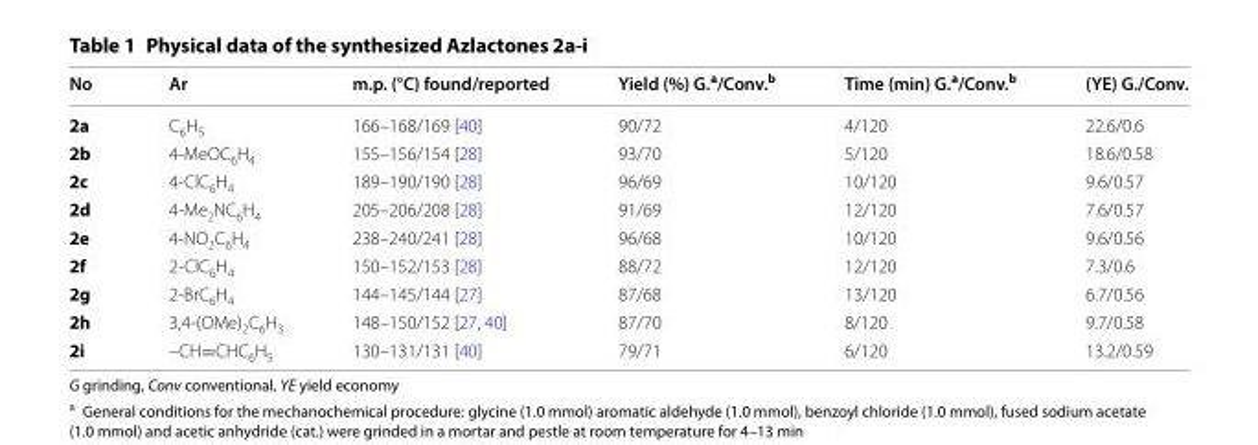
<table><thead><tr><td>No</td><td>Ar</td><td>m.p. (°C) found/reported</td><td>Yield (%) G.<sup>a</sup>/Conv.<sup>b</sup></td><td>Time (min) G.<sup>a</sup>/Conv.<sup>b</sup></td><td>(YE) G./Conv.</td></tr></thead><tbody><tr><td>2a</td><td>C<sub>6</sub>H<sub>5</sub></td><td>166–168/169 [40]</td><td>90/72</td><td>4/120</td><td>22.6/0.6</td></tr><tr><td>2b</td><td>4‑MeOC<sub>6</sub>H<sub>4</sub></td><td>155–156/154 [28]</td><td>93/70</td><td>5/120</td><td>18.6/0.58</td></tr><tr><td>2c</td><td>4‑ClC<sub>6</sub>H<sub>4</sub></td><td>189–190/190 [28]</td><td>96/69</td><td>10/120</td><td>9.6/0.57</td></tr><tr><td>2d</td><td>4‑Me<sub>2</sub>NC<sub>6</sub>H<sub>4</sub></td><td>205–206/208 [28]</td><td>91/69</td><td>12/120</td><td>7.6/0.57</td></tr><tr><td>2e</td><td>4‑NO<sub>2</sub>C<sub>6</sub>H<sub>4</sub></td><td>238–240/241 [28]</td><td>96/68</td><td>10/120</td><td>9.6/0.56</td></tr><tr><td>2f</td><td>2‑ClC<sub>6</sub>H<sub>4</sub></td><td>150–152/153 [28]</td><td>88/72</td><td>12/120</td><td>7.3/0.6</td></tr><tr><td>2g</td><td>2‑BrC<sub>6</sub>H<sub>4</sub></td><td>144–145/144 [27]</td><td>87/68</td><td>13/120</td><td>6.7/0.56</td></tr><tr><td>2h</td><td>3,4‑(OMe)<sub>2</sub>C<sub>6</sub>H<sub>3</sub></td><td>148–150/152 [27, 40]</td><td>87/70</td><td>8/120</td><td>9.7/0.58</td></tr><tr><td>2i</td><td>–CH=CHC<sub>6</sub>H<sub>5</sub></td><td>130–131/131 [40]</td><td>79/71</td><td>6/120</td><td>13.2/0.59</td></tr></tbody></table>